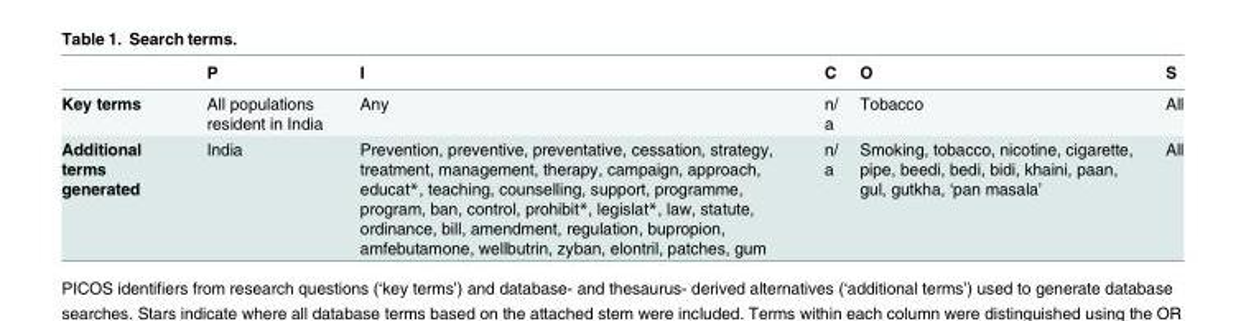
<table><thead><tr><td></td><td>P</td><td>I</td><td>C</td><td>O</td><td>S</td></tr></thead><tbody><tr><td>Key terms</td><td>All populations resident in India</td><td>Any</td><td>n/ a</td><td>Tobacco</td><td>All</td></tr><tr><td>Additional terms generated</td><td>India</td><td>Prevention, preventive, preventative, cessation, strategy, treatment, management, therapy, campaign, approach, educat*, teaching, counselling, support, programme, program, ban, control, prohibit*, legislat*, law, statute, ordinance, bill, amendment, regulation, bupropion, amfebutamone, wellbutrin, zyban, elontril, patches, gum</td><td>n/ a</td><td>Smoking, tobacco, nicotine, cigarette, pipe, beedi, bedi, bidi, khaini, paan, gul, gutkha, ‘pan masala’</td><td>All</td></tr></tbody></table>